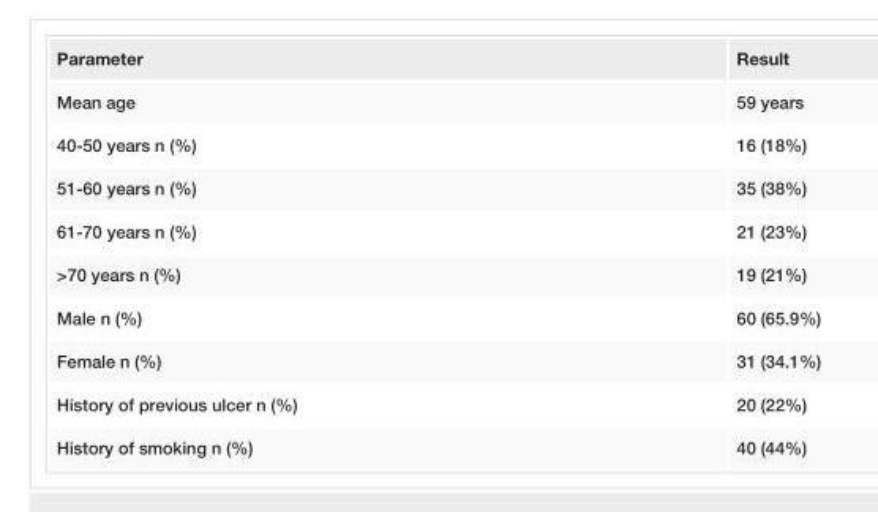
<table><tbody><tr><td>Parameter</td><td>Result</td></tr><tr><td>Mean age</td><td>59 years</td></tr><tr><td>40-50 years n (%)</td><td>16 (18%)</td></tr><tr><td>51-60 years n (%)</td><td>35 (38%)</td></tr><tr><td>61-70 years n (%)</td><td>21 (23%)</td></tr><tr><td>&gt;70 years n (%)</td><td>19 (21%)</td></tr><tr><td>Male n (%)</td><td>60 (65.9%)</td></tr><tr><td>Female n (%)</td><td>31 (34.1%)</td></tr><tr><td>History of previous ulcer n (%)</td><td>20 (22%)</td></tr><tr><td>History of smoking n (%)</td><td>40 (44%)</td></tr></tbody></table>